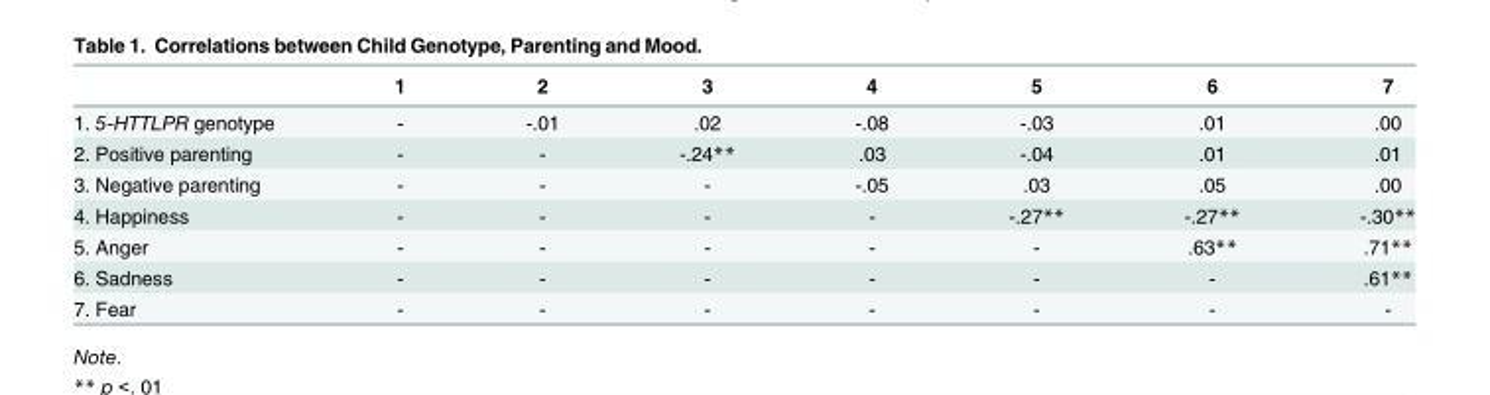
<table><thead><tr><td></td><td>1</td><td>2</td><td>3</td><td>4</td><td>5</td><td>6</td><td>7</td></tr></thead><tbody><tr><td>1. 5-HTTLPR genotype</td><td>-</td><td>-.01</td><td>.02</td><td>-.08</td><td>-.03</td><td>.01</td><td>.00</td></tr><tr><td>2. Positive parenting</td><td>-</td><td>-</td><td>-.24**</td><td>.03</td><td>-.04</td><td>.01</td><td>.01</td></tr><tr><td>3. Negative parenting</td><td>-</td><td>-</td><td>-</td><td>-.05</td><td>.03</td><td>.05</td><td>.00</td></tr><tr><td>4. Happiness</td><td>-</td><td>-</td><td>-</td><td>-</td><td>-.27**</td><td>-.27**</td><td>-.30**</td></tr><tr><td>5. Anger</td><td>-</td><td>-</td><td>-</td><td>-</td><td>-</td><td>.63**</td><td>.71**</td></tr><tr><td>6. Sadness</td><td>-</td><td>-</td><td>-</td><td>-</td><td>-</td><td>-</td><td>.61**</td></tr><tr><td>7. Fear</td><td>-</td><td>-</td><td>-</td><td>-</td><td>-</td><td>-</td><td>-</td></tr></tbody></table>